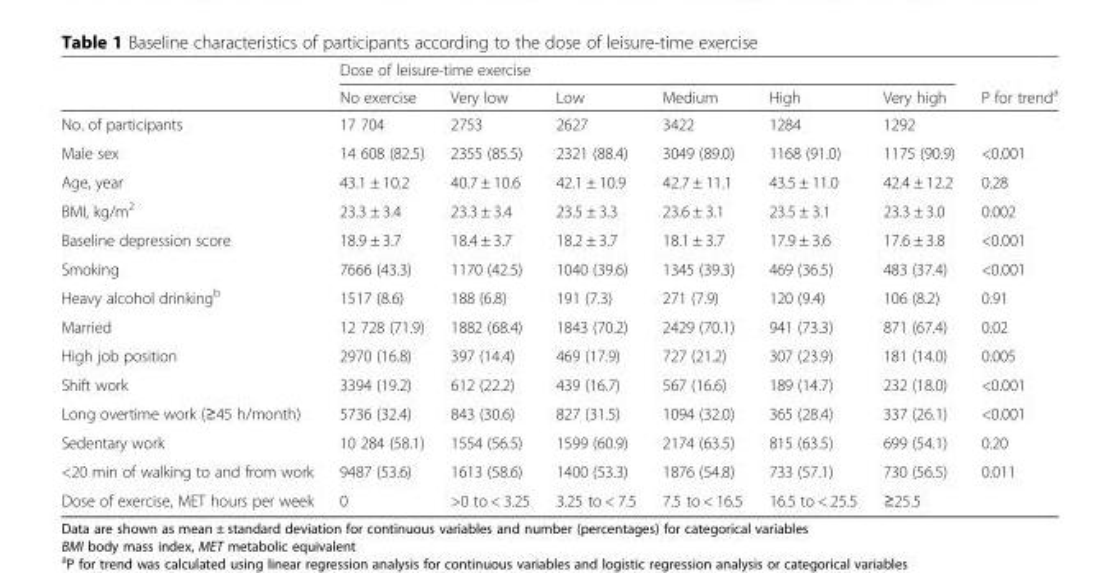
<table><thead><tr><td rowspan="2"></td><td colspan="6">Dose of leisure-time exercise</td><td rowspan="2">P for trend<sup>a</sup></td></tr><tr><td>No exercise</td><td>Very low</td><td>Low</td><td>Medium</td><td>High</td><td>Very high</td></tr></thead><tbody><tr><td>No. of participants</td><td>17 704</td><td>2753</td><td>2627</td><td>3422</td><td>1284</td><td>1292</td><td></td></tr><tr><td>Male sex</td><td>14 608 (82.5)</td><td>2355 (85.5)</td><td>2321 (88.4)</td><td>3049 (89.0)</td><td>1168 (91.0)</td><td>1175 (90.9)</td><td>&lt;0.001</td></tr><tr><td>Age, year</td><td>43.1 ± 10.2</td><td>40.7 ± 10.6</td><td>42.1 ± 10.9</td><td>42.7 ± 11.1</td><td>43.5 ± 11.0</td><td>42.4 ± 12.2</td><td>0.28</td></tr><tr><td>BMI, kg/m<sup>2</sup></td><td>23.3 ± 3.4</td><td>23.3 ± 3.4</td><td>23.5 ± 3.3</td><td>23.6 ± 3.1</td><td>23.5 ± 3.1</td><td>23.3 ± 3.0</td><td>0.002</td></tr><tr><td>Baseline depression score</td><td>18.9 ± 3.7</td><td>18.4 ± 3.7</td><td>18.2 ± 3.7</td><td>18.1 ± 3.7</td><td>17.9 ± 3.6</td><td>17.6 ± 3.8</td><td>&lt;0.001</td></tr><tr><td>Smoking</td><td>7666 (43.3)</td><td>1170 (42.5)</td><td>1040 (39.6)</td><td>1345 (39.3)</td><td>469 (36.5)</td><td>483 (37.4)</td><td>&lt;0.001</td></tr><tr><td>Heavy alcohol drinking<sup>b</sup></td><td>1517 (8.6)</td><td>188 (6.8)</td><td>191 (7.3)</td><td>271 (7.9)</td><td>120 (9.4)</td><td>106 (8.2)</td><td>0.91</td></tr><tr><td>Married</td><td>12 728 (71.9)</td><td>1882 (68.4)</td><td>1843 (70.2)</td><td>2429 (70.1)</td><td>941 (73.3)</td><td>871 (67.4)</td><td>0.02</td></tr><tr><td>High job position</td><td>2970 (16.8)</td><td>397 (14.4)</td><td>469 (17.9)</td><td>727 (21.2)</td><td>307 (23.9)</td><td>181 (14.0)</td><td>0.005</td></tr><tr><td>Shift work</td><td>3394 (19.2)</td><td>612 (22.2)</td><td>439 (16.7)</td><td>567 (16.6)</td><td>189 (14.7)</td><td>232 (18.0)</td><td>&lt;0.001</td></tr><tr><td>Long overtime work (≥45 h/month)</td><td>5736 (32.4)</td><td>843 (30.6)</td><td>827 (31.5)</td><td>1094 (32.0)</td><td>365 (28.4)</td><td>337 (26.1)</td><td>&lt;0.001</td></tr><tr><td>Sedentary work</td><td>10 284 (58.1)</td><td>1554 (56.5)</td><td>1599 (60.9)</td><td>2174 (63.5)</td><td>815 (63.5)</td><td>699 (54.1)</td><td>0.20</td></tr><tr><td>&lt;20 min of walking to and from work</td><td>9487 (53.6)</td><td>1613 (58.6)</td><td>1400 (53.3)</td><td>1876 (54.8)</td><td>733 (57.1)</td><td>730 (56.5)</td><td>0.011</td></tr><tr><td>Dose of exercise, MET hours per week</td><td>0</td><td>&gt;0 to &lt; 3.25</td><td>3.25 to &lt; 7.5</td><td>7.5 to &lt; 16.5</td><td>16.5 to &lt; 25.5</td><td>≥25.5</td><td></td></tr></tbody></table>